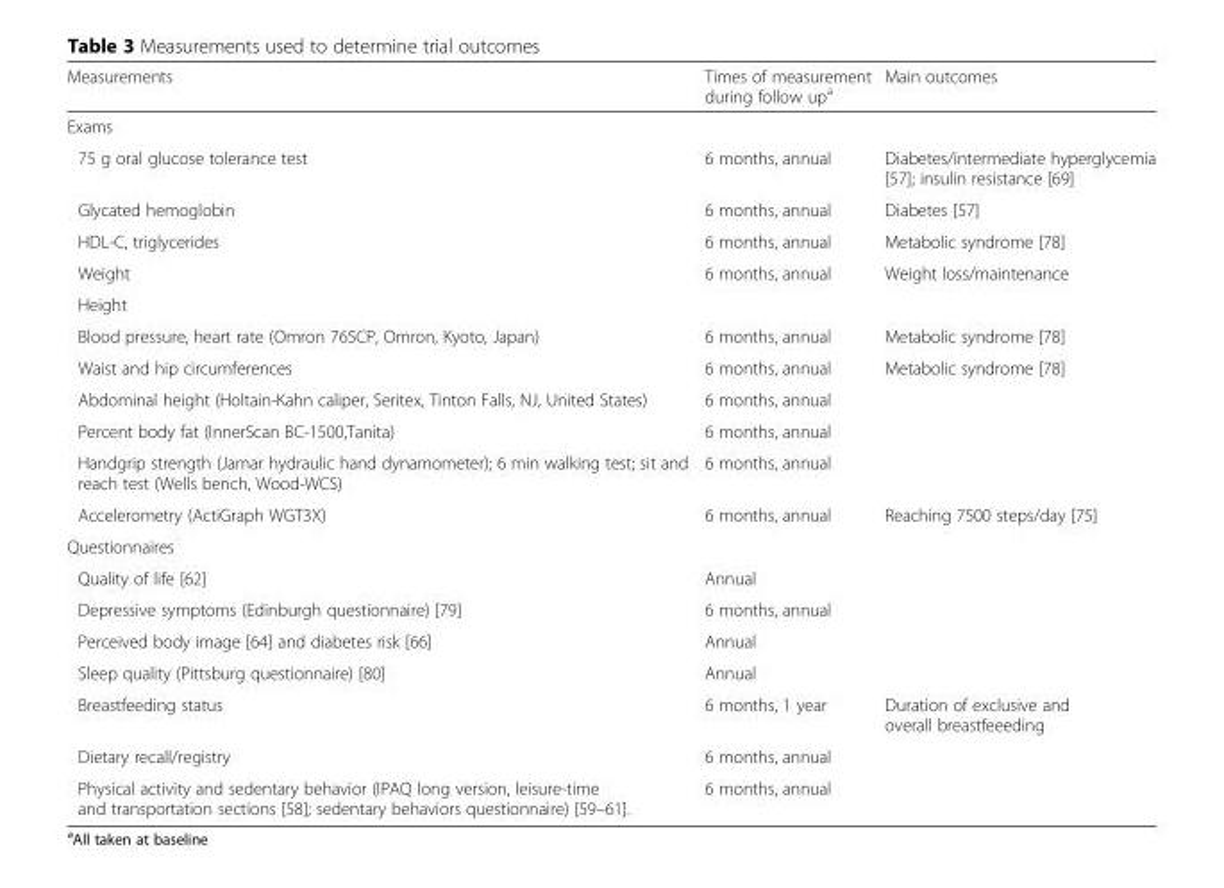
<table><thead><tr><td>Measurements</td><td>Times of measurement during follow up<sup>a</sup></td><td>Main outcomes</td></tr></thead><tbody><tr><td colspan="3">Exams</td></tr><tr><td>75 g oral glucose tolerance test</td><td>6 months, annual</td><td>Diabetes/intermediate hyperglycemia [57]; insulin resistance [69]</td></tr><tr><td>Glycated hemoglobin</td><td>6 months, annual</td><td>Diabetes [57]</td></tr><tr><td>HDL-C, triglycerides</td><td>6 months, annual</td><td>Metabolic syndrome [78]</td></tr><tr><td>Weight</td><td>6 months, annual</td><td>Weight loss/maintenance</td></tr><tr><td colspan="3">Height</td></tr><tr><td>Blood pressure, heart rate (Omron 765CP, Omron, Kyoto, Japan)</td><td>6 months, annual</td><td>Metabolic syndrome [78]</td></tr><tr><td>Waist and hip circumferences</td><td>6 months, annual</td><td>Metabolic syndrome [78]</td></tr><tr><td>Abdominal height (Holtain-Kahn caliper, Seritex, Tinton Falls, NJ, United States)</td><td>6 months, annual</td><td></td></tr><tr><td>Percent body fat (InnerScan BC-1500,Tanita)</td><td>6 months, annual</td><td></td></tr><tr><td>Handgrip strength (Jamar hydraulic hand dynamometer); 6 min walking test; sit and reach test (Wells bench, Wood-WCS)</td><td>6 months, annual</td><td></td></tr><tr><td>Accelerometry (ActiGraph WGT3X)</td><td>6 months, annual</td><td>Reaching 7500 steps/day [75]</td></tr><tr><td colspan="3">Questionnaires</td></tr><tr><td>Quality of life [62]</td><td>Annual</td><td></td></tr><tr><td>Depressive symptoms (Edinburgh questionnaire) [79]</td><td>6 months, annual</td><td></td></tr><tr><td>Perceived body image [64] and diabetes risk [66]</td><td>Annual</td><td></td></tr><tr><td>Sleep quality (Pittsburg questionnaire) [80]</td><td>Annual</td><td></td></tr><tr><td>Breastfeeding status</td><td>6 months, 1 year</td><td>Duration of exclusive and overall breastfeeeding</td></tr><tr><td>Dietary recall/registry</td><td>6 months, annual</td><td></td></tr><tr><td>Physical activity and sedentary behavior (IPAQ long version, leisure-time and transportation sections [58]; sedentary behaviors questionnaire) [59–61].</td><td>6 months, annual</td><td></td></tr></tbody></table>